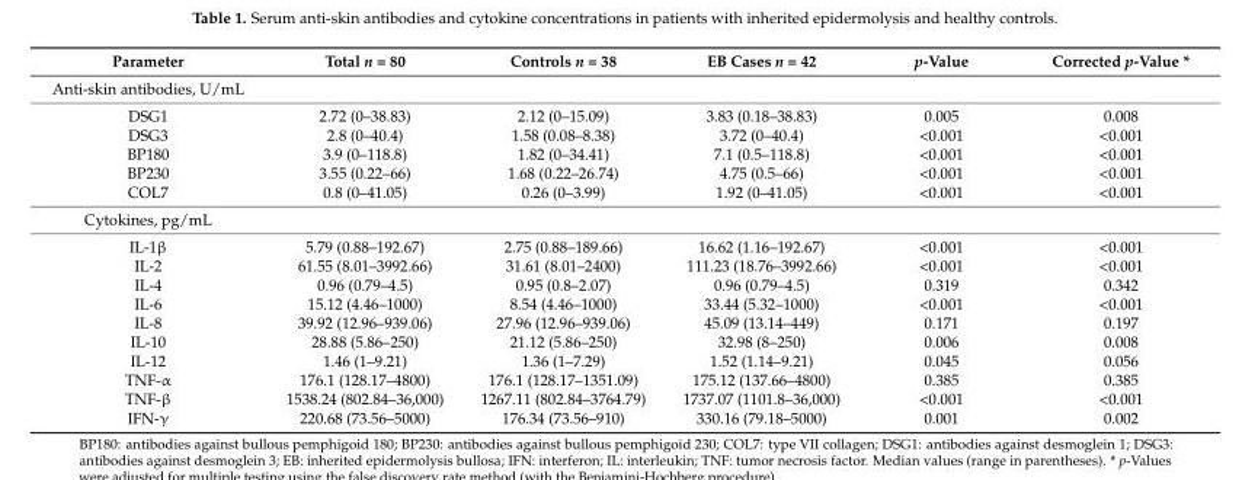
<table><thead><tr><td>Parameter</td><td>Total n = 80</td><td>Controls n = 38</td><td>EB Cases n = 42</td><td>p-Value</td><td>Corrected p-Value *</td></tr></thead><tbody><tr><td colspan="6">Anti-skin antibodies, U/mL</td></tr><tr><td>DSG1</td><td>2.72 (0–38.83)</td><td>2.12 (0–15.09)</td><td>3.83 (0.18–38.83)</td><td>0.005</td><td>0.008</td></tr><tr><td>DSG3</td><td>2.8 (0–40.4)</td><td>1.58 (0.08–8.38)</td><td>3.72 (0–40.4)</td><td>&lt;0.001</td><td>&lt;0.001</td></tr><tr><td>BP180</td><td>3.9 (0–118.8)</td><td>1.82 (0–34.41)</td><td>7.1 (0.5–118.8)</td><td>&lt;0.001</td><td>&lt;0.001</td></tr><tr><td>BP230</td><td>3.55 (0.22–66)</td><td>1.68 (0.22–26.74)</td><td>4.75 (0.5–66)</td><td>&lt;0.001</td><td>&lt;0.001</td></tr><tr><td>COL7</td><td>0.8 (0–41.05)</td><td>0.26 (0–3.99)</td><td>1.92 (0–41.05)</td><td>&lt;0.001</td><td>&lt;0.001</td></tr><tr><td colspan="6">Cytokines, pg/mL</td></tr><tr><td>IL-1β</td><td>5.79 (0.88–192.67)</td><td>2.75 (0.88–189.66)</td><td>16.62 (1.16–192.67)</td><td>&lt;0.001</td><td>&lt;0.001</td></tr><tr><td>IL-2</td><td>61.55 (8.01–3992.66)</td><td>31.61 (8.01–2400)</td><td>111.23 (18.76–3992.66)</td><td>&lt;0.001</td><td>&lt;0.001</td></tr><tr><td>IL-4</td><td>0.96 (0.79–4.5)</td><td>0.95 (0.8–2.07)</td><td>0.96 (0.79–4.5)</td><td>0.319</td><td>0.342</td></tr><tr><td>IL-6</td><td>15.12 (4.46–1000)</td><td>8.54 (4.46–1000)</td><td>33.44 (5.32–1000)</td><td>&lt;0.001</td><td>&lt;0.001</td></tr><tr><td>IL-8</td><td>39.92 (12.96–939.06)</td><td>27.96 (12.96–939.06)</td><td>45.09 (13.14–449)</td><td>0.171</td><td>0.197</td></tr><tr><td>IL-10</td><td>28.88 (5.86–250)</td><td>21.12 (5.86–250)</td><td>32.98 (8–250)</td><td>0.006</td><td>0.008</td></tr><tr><td>IL-12</td><td>1.46 (1–9.21)</td><td>1.36 (1–7.29)</td><td>1.52 (1.14–9.21)</td><td>0.045</td><td>0.056</td></tr><tr><td>TNF-α</td><td>176.1 (128.17–4800)</td><td>176.1 (128.17–1351.09)</td><td>175.12 (137.66–4800)</td><td>0.385</td><td>0.385</td></tr><tr><td>TNF-β</td><td>1538.24 (802.84–36,000)</td><td>1267.11 (802.84–3764.79)</td><td>1737.07 (1101.8–36,000)</td><td>&lt;0.001</td><td>&lt;0.001</td></tr><tr><td>IFN-γ</td><td>220.68 (73.56–5000)</td><td>176.34 (73.56–910)</td><td>330.16 (79.18–5000)</td><td>0.001</td><td>0.002</td></tr></tbody></table>